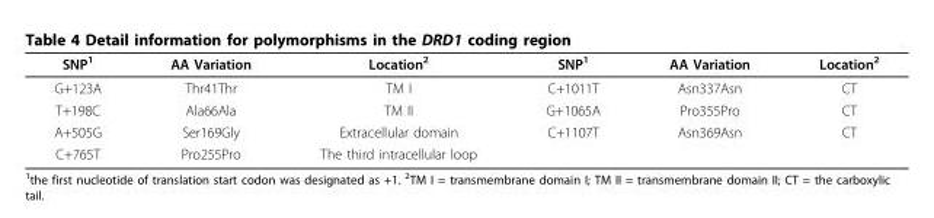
<table><thead><tr><td>SNP<sup>1</sup></td><td>AA Variation</td><td>Location<sup>2</sup></td><td>SNP<sup>1</sup></td><td>AA Variation</td><td>Location<sup>2</sup></td></tr></thead><tbody><tr><td>G+123A</td><td>Thr41Thr</td><td>TM I</td><td>C+1011T</td><td>Asn337Asn</td><td>CT</td></tr><tr><td>T+198C</td><td>Ala66Ala</td><td>TM II</td><td>G+1065A</td><td>Pro355Pro</td><td>CT</td></tr><tr><td>A+505G</td><td>Ser169Gly</td><td>Extracellular domain</td><td>C+1107T</td><td>Asn369Asn</td><td>CT</td></tr><tr><td>C+765T</td><td>Pro255Pro</td><td>The third intracellular loop</td><td></td><td></td><td></td></tr></tbody></table>